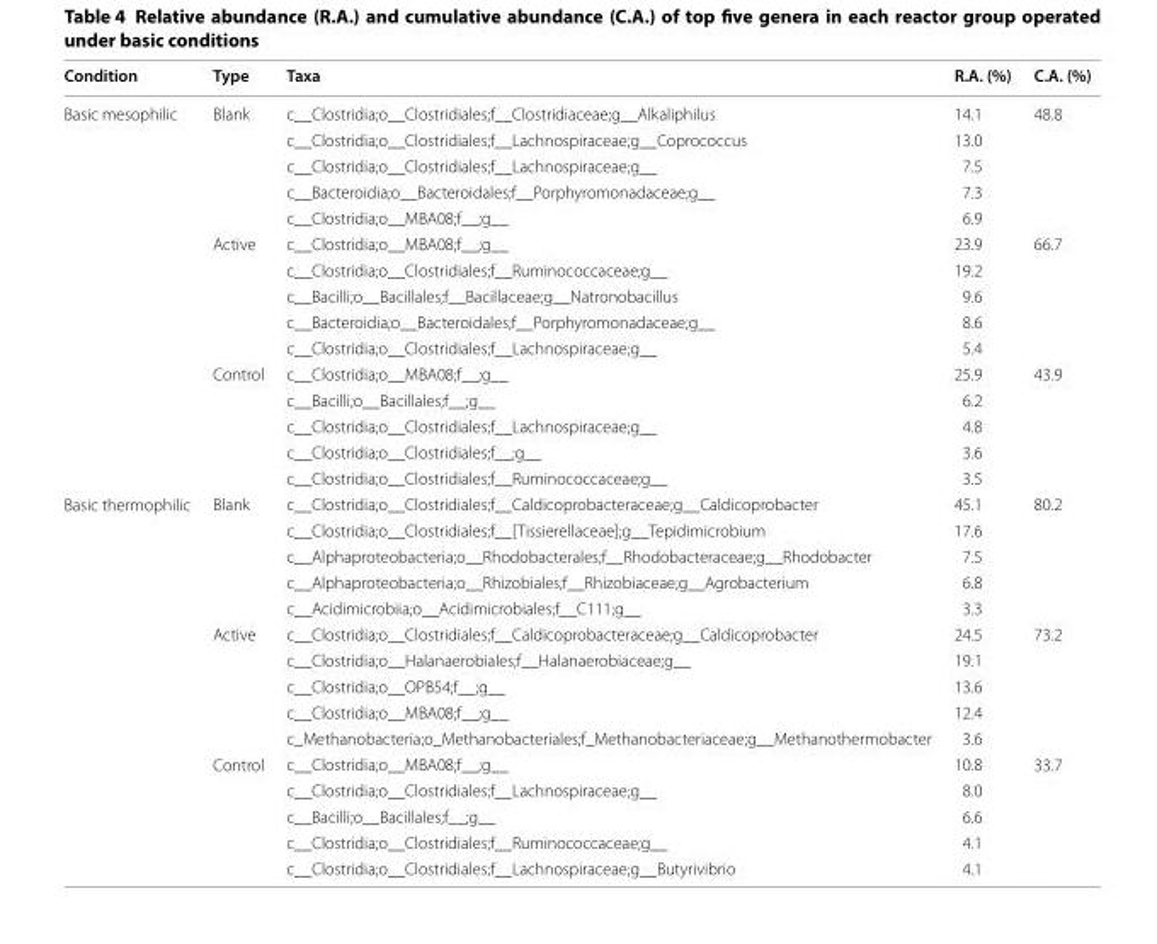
<table><thead><tr><td>Condition</td><td>Type</td><td>Taxa</td><td>R.A. (%)</td><td>C.A. (%)</td></tr></thead><tbody><tr><td rowspan="15">Basic mesophilic</td><td rowspan="5">Blank</td><td>c__Clostridia;o__Clostridiales;f__Clostridiaceae;g__Alkaliphilus</td><td>14.1</td><td rowspan="5">48.8</td></tr><tr><td>c__Clostridia;o__Clostridiales;f__Lachnospiraceae;g__Coprococcus</td><td>13.0</td></tr><tr><td>c__Clostridia;o__Clostridiales;f__Lachnospiraceae;g__</td><td>7.5</td></tr><tr><td>c__Bacteroidia;o__Bacteroidales;f__Porphyromonadaceae;g__</td><td>7.3</td></tr><tr><td>c__Clostridia;o__MBA08;f__;g__</td><td>6.9</td></tr><tr><td rowspan="5">Active</td><td>c__Clostridia;o__MBA08;f__;g__</td><td>23.9</td><td rowspan="5">66.7</td></tr><tr><td>c__Clostridia;o__Clostridiales;f__Ruminococcaceae;g__</td><td>19.2</td></tr><tr><td>c__Bacilli;o__Bacillales;f__Bacillaceae;g__Natronobacillus</td><td>9.6</td></tr><tr><td>c__Bacteroidia;o__Bacteroidales;f__Porphyromonadaceae;g__</td><td>8.6</td></tr><tr><td>c__Clostridia;o__Clostridiales;f__Lachnospiraceae;g__</td><td>5.4</td></tr><tr><td rowspan="5">Control</td><td>c__Clostridia;o__MBA08;f__;g__</td><td>25.9</td><td rowspan="5">43.9</td></tr><tr><td>c__Bacilli;o__Bacillales;f__;g__</td><td>6.2</td></tr><tr><td>c__Clostridia;o__Clostridiales;f__Lachnospiraceae;g__</td><td>4.8</td></tr><tr><td>c__Clostridia;o__Clostridiales;f__;g__</td><td>3.6</td></tr><tr><td>c__Clostridia;o__Clostridiales;f__Ruminococcaceae;g__</td><td>3.5</td></tr><tr><td rowspan="15">Basic thermophilic</td><td rowspan="5">Blank</td><td>c__Clostridia;o__Clostridiales;f__Caldicoprobacteraceae;g__Caldicoprobacter</td><td>45.1</td><td rowspan="5">80.2</td></tr><tr><td>c__Clostridia;o__Clostridiales;f__[Tissierellaceae];g__Tepidimicrobium</td><td>17.6</td></tr><tr><td>c__Alphaproteobacteria;o__Rhodobacterales;f__Rhodobacteraceae;g__Rhodobacter</td><td>7.5</td></tr><tr><td>c__Alphaproteobacteria;o__Rhizobiales;f__Rhizobiaceae;g__Agrobacterium</td><td>6.8</td></tr><tr><td>c__Acidimicrobiia;o__Acidimicrobiales;f__C111;g__</td><td>3.3</td></tr><tr><td rowspan="5">Active</td><td>c__Clostridia;o__Clostridiales;f__Caldicoprobacteraceae;g__Caldicoprobacter</td><td>24.5</td><td rowspan="5">73.2</td></tr><tr><td>c__Clostridia;o__Halanaerobiales;f__Halanaerobiaceae;g__</td><td>19.1</td></tr><tr><td>c__Clostridia;o__OPB54;f__;g__</td><td>13.6</td></tr><tr><td>c__Clostridia;o__MBA08;f__;g__</td><td>12.4</td></tr><tr><td>c_Methanobacteria;o_Methanobacteriales;f_Methanobacteriaceae;g__Methanothermobacter</td><td>3.6</td></tr><tr><td rowspan="5">Control</td><td>c__Clostridia;o__MBA08;f__;g__</td><td>10.8</td><td rowspan="5">33.7</td></tr><tr><td>c__Clostridia;o__Clostridiales;f__Lachnospiraceae;g__</td><td>8.0</td></tr><tr><td>c__Bacilli;o__Bacillales;f__;g__</td><td>6.6</td></tr><tr><td>c__Clostridia;o__Clostridiales;f__Ruminococcaceae;g__</td><td>4.1</td></tr><tr><td>c__Clostridia;o__Clostridiales;f__Lachnospiraceae;g__Butyrivibrio</td><td>4.1</td></tr></tbody></table>